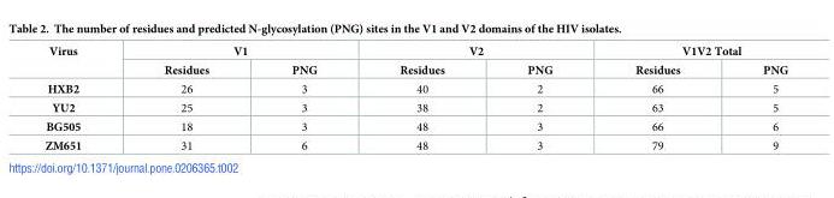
<table><thead><tr><td rowspan="2">Virus</td><td colspan="2">V1</td><td colspan="2">V2</td><td colspan="2">V1V2 Total</td></tr><tr><td>Residues</td><td>PNG</td><td>Residues</td><td>PNG</td><td>Residues</td><td>PNG</td></tr></thead><tbody><tr><td>HXB2</td><td>26</td><td>3</td><td>40</td><td>2</td><td>66</td><td>5</td></tr><tr><td>YU2</td><td>25</td><td>3</td><td>38</td><td>2</td><td>63</td><td>5</td></tr><tr><td>BG505</td><td>18</td><td>3</td><td>48</td><td>3</td><td>66</td><td>6</td></tr><tr><td>ZM651</td><td>31</td><td>6</td><td>48</td><td>3</td><td>79</td><td>9</td></tr></tbody></table>